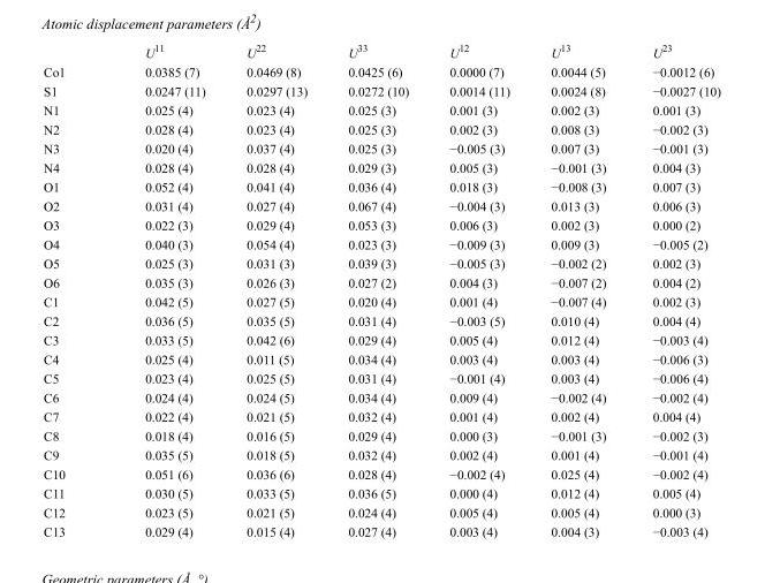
<table><thead><tr><td></td><td>U<sup>11</sup></td><td>U<sup>22</sup></td><td>U<sup>33</sup></td><td>U<sup>12</sup></td><td>U<sup>13</sup></td><td>U<sup>23</sup></td></tr></thead><tbody><tr><td>Co1</td><td>0.0385 (7)</td><td>0.0469 (8)</td><td>0.0425 (6)</td><td>0.0000 (7)</td><td>0.0044 (5)</td><td>−0.0012 (6)</td></tr><tr><td>S1</td><td>0.0247 (11)</td><td>0.0297 (13)</td><td>0.0272 (10)</td><td>0.0014 (11)</td><td>0.0024 (8)</td><td>−0.0027 (10)</td></tr><tr><td>N1</td><td>0.025 (4)</td><td>0.023 (4)</td><td>0.025 (3)</td><td>0.001 (3)</td><td>0.002 (3)</td><td>0.001 (3)</td></tr><tr><td>N2</td><td>0.028 (4)</td><td>0.023 (4)</td><td>0.025 (3)</td><td>0.002 (3)</td><td>0.008 (3)</td><td>−0.002 (3)</td></tr><tr><td>N3</td><td>0.020 (4)</td><td>0.037 (4)</td><td>0.025 (3)</td><td>−0.005 (3)</td><td>0.007 (3)</td><td>−0.001 (3)</td></tr><tr><td>N4</td><td>0.028 (4)</td><td>0.028 (4)</td><td>0.029 (3)</td><td>0.005 (3)</td><td>−0.001 (3)</td><td>0.004 (3)</td></tr><tr><td>O1</td><td>0.052 (4)</td><td>0.041 (4)</td><td>0.036 (4)</td><td>0.018 (3)</td><td>−0.008 (3)</td><td>0.007 (3)</td></tr><tr><td>O2</td><td>0.031 (4)</td><td>0.027 (4)</td><td>0.067 (4)</td><td>−0.004 (3)</td><td>0.013 (3)</td><td>0.006 (3)</td></tr><tr><td>O3</td><td>0.022 (3)</td><td>0.029 (4)</td><td>0.053 (3)</td><td>0.006 (3)</td><td>0.002 (3)</td><td>0.000 (2)</td></tr><tr><td>O4</td><td>0.040 (3)</td><td>0.054 (4)</td><td>0.023 (3)</td><td>−0.009 (3)</td><td>0.009 (3)</td><td>−0.005 (2)</td></tr><tr><td>O5</td><td>0.025 (3)</td><td>0.031 (3)</td><td>0.039 (3)</td><td>−0.005 (3)</td><td>−0.002 (2)</td><td>0.002 (3)</td></tr><tr><td>O6</td><td>0.035 (3)</td><td>0.026 (3)</td><td>0.027 (2)</td><td>0.004 (3)</td><td>−0.007 (2)</td><td>0.004 (2)</td></tr><tr><td>C1</td><td>0.042 (5)</td><td>0.027 (5)</td><td>0.020 (4)</td><td>0.001 (4)</td><td>−0.007 (4)</td><td>0.002 (3)</td></tr><tr><td>C2</td><td>0.036 (5)</td><td>0.035 (5)</td><td>0.031 (4)</td><td>−0.003 (5)</td><td>0.010 (4)</td><td>0.004 (4)</td></tr><tr><td>C3</td><td>0.033 (5)</td><td>0.042 (6)</td><td>0.029 (4)</td><td>0.005 (4)</td><td>0.012 (4)</td><td>−0.003 (4)</td></tr><tr><td>C4</td><td>0.025 (4)</td><td>0.011 (5)</td><td>0.034 (4)</td><td>0.003 (4)</td><td>0.003 (4)</td><td>−0.006 (3)</td></tr><tr><td>C5</td><td>0.023 (4)</td><td>0.025 (5)</td><td>0.031 (4)</td><td>−0.001 (4)</td><td>0.003 (4)</td><td>−0.006 (4)</td></tr><tr><td>C6</td><td>0.024 (4)</td><td>0.024 (5)</td><td>0.034 (4)</td><td>0.009 (4)</td><td>−0.002 (4)</td><td>−0.002 (4)</td></tr><tr><td>C7</td><td>0.022 (4)</td><td>0.021 (5)</td><td>0.032 (4)</td><td>0.001 (4)</td><td>0.002 (4)</td><td>0.004 (4)</td></tr><tr><td>C8</td><td>0.018 (4)</td><td>0.016 (5)</td><td>0.029 (4)</td><td>0.000 (3)</td><td>−0.001 (3)</td><td>−0.002 (3)</td></tr><tr><td>C9</td><td>0.035 (5)</td><td>0.018 (5)</td><td>0.032 (4)</td><td>0.002 (4)</td><td>0.001 (4)</td><td>−0.001 (4)</td></tr><tr><td>C10</td><td>0.051 (6)</td><td>0.036 (6)</td><td>0.028 (4)</td><td>−0.002 (4)</td><td>0.025 (4)</td><td>−0.002 (4)</td></tr><tr><td>C11</td><td>0.030 (5)</td><td>0.033 (5)</td><td>0.036 (5)</td><td>0.000 (4)</td><td>0.012 (4)</td><td>0.005 (4)</td></tr><tr><td>C12</td><td>0.023 (5)</td><td>0.021 (5)</td><td>0.024 (4)</td><td>0.005 (4)</td><td>0.005 (4)</td><td>0.000 (3)</td></tr><tr><td>C13</td><td>0.029 (4)</td><td>0.015 (4)</td><td>0.027 (4)</td><td>0.003 (4)</td><td>0.004 (3)</td><td>−0.003 (4)</td></tr></tbody></table>